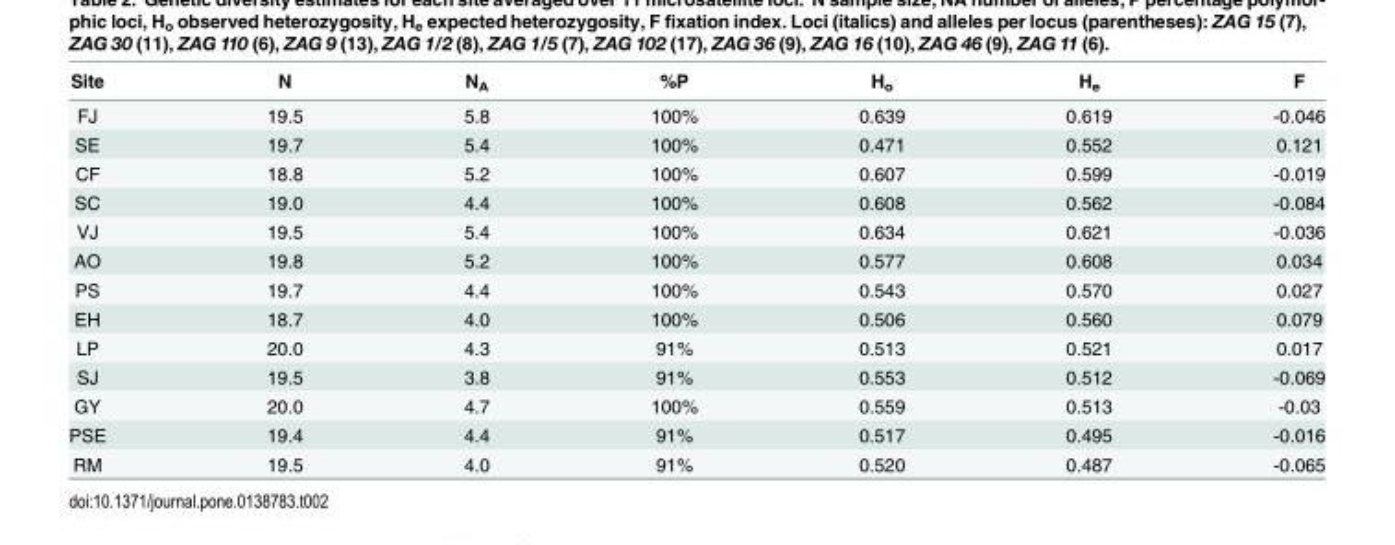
<table><thead><tr><td>Site</td><td>N</td><td>N<sub>A</sub></td><td>%P</td><td>H<sub>o</sub></td><td>H<sub>e</sub></td><td>F</td></tr></thead><tbody><tr><td>FJ</td><td>19.5</td><td>5.8</td><td>100%</td><td>0.639</td><td>0.619</td><td>-0.046</td></tr><tr><td>SE</td><td>19.7</td><td>5.4</td><td>100%</td><td>0.471</td><td>0.552</td><td>0.121</td></tr><tr><td>CF</td><td>18.8</td><td>5.2</td><td>100%</td><td>0.607</td><td>0.599</td><td>-0.019</td></tr><tr><td>SC</td><td>19.0</td><td>4.4</td><td>100%</td><td>0.608</td><td>0.562</td><td>-0.084</td></tr><tr><td>VJ</td><td>19.5</td><td>5.4</td><td>100%</td><td>0.634</td><td>0.621</td><td>-0.036</td></tr><tr><td>AO</td><td>19.8</td><td>5.2</td><td>100%</td><td>0.577</td><td>0.608</td><td>0.034</td></tr><tr><td>PS</td><td>19.7</td><td>4.4</td><td>100%</td><td>0.543</td><td>0.570</td><td>0.027</td></tr><tr><td>EH</td><td>18.7</td><td>4.0</td><td>100%</td><td>0.506</td><td>0.560</td><td>0.079</td></tr><tr><td>LP</td><td>20.0</td><td>4.3</td><td>91%</td><td>0.513</td><td>0.521</td><td>0.017</td></tr><tr><td>SJ</td><td>19.5</td><td>3.8</td><td>91%</td><td>0.553</td><td>0.512</td><td>-0.069</td></tr><tr><td>GY</td><td>20.0</td><td>4.7</td><td>100%</td><td>0.559</td><td>0.513</td><td>-0.03</td></tr><tr><td>PSE</td><td>19.4</td><td>4.4</td><td>91%</td><td>0.517</td><td>0.495</td><td>-0.016</td></tr><tr><td>RM</td><td>19.5</td><td>4.0</td><td>91%</td><td>0.520</td><td>0.487</td><td>-0.065</td></tr></tbody></table>